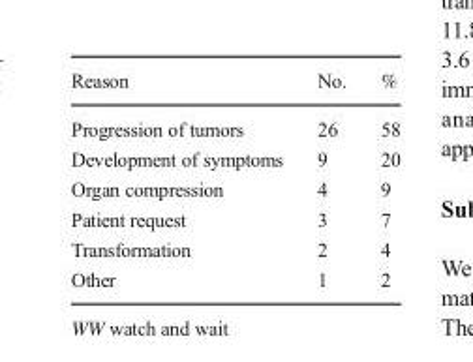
<table><thead><tr><td>Reason</td><td>No.</td><td>%</td></tr></thead><tbody><tr><td>Progression of tumors</td><td>26</td><td>58</td></tr><tr><td>Development of symptoms</td><td>9</td><td>20</td></tr><tr><td>Organ compression</td><td>4</td><td>9</td></tr><tr><td>Patient request</td><td>3</td><td>7</td></tr><tr><td>Transformation</td><td>2</td><td>4</td></tr><tr><td>Other</td><td>1</td><td>2</td></tr></tbody></table>